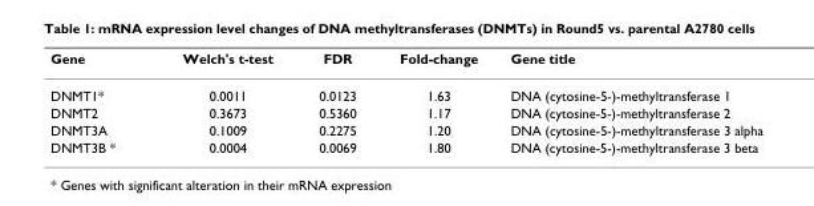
<table><thead><tr><td>Gene</td><td>Welch&#x27;s t-test</td><td>FDR</td><td>Fold-change</td><td>Gene title</td></tr></thead><tbody><tr><td>DNMT1*</td><td>0.0011</td><td>0.0123</td><td>1.63</td><td>DNA (cytosine-5-)-methyltransferase 1</td></tr><tr><td>DNMT2</td><td>0.3673</td><td>0.5360</td><td>1.17</td><td>DNA (cytosine-5-)-methyltransferase 2</td></tr><tr><td>DNMT3A</td><td>0.1009</td><td>0.2275</td><td>1.20</td><td>DNA (cytosine-5-)-methyltransferase 3 alpha</td></tr><tr><td>DNMT3B *</td><td>0.0004</td><td>0.0069</td><td>1.80</td><td>DNA (cytosine-5-)-methyltransferase 3 beta</td></tr></tbody></table>